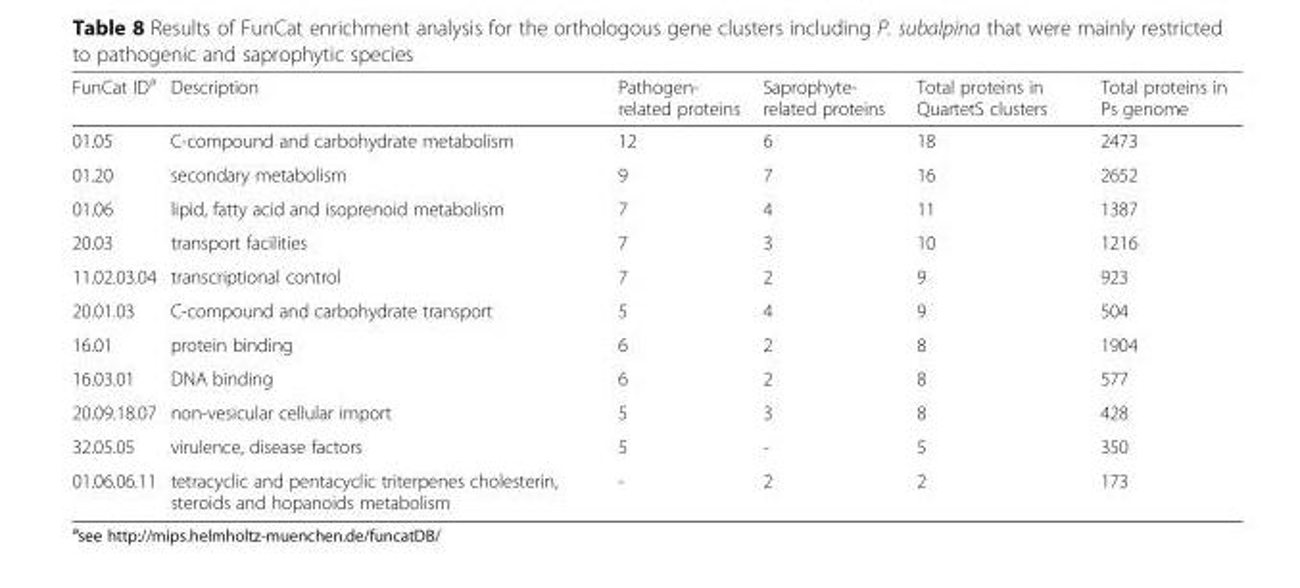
<table><thead><tr><td>FunCat ID<sup>a</sup></td><td>Description</td><td>Pathogen- related proteins</td><td>Saprophyte- related proteins</td><td>Total proteins in QuartetS clusters</td><td>Total proteins in Ps genome</td></tr></thead><tbody><tr><td>01.05</td><td>C-compound and carbohydrate metabolism</td><td>12</td><td>6</td><td>18</td><td>2473</td></tr><tr><td>01.20</td><td>secondary metabolism</td><td>9</td><td>7</td><td>16</td><td>2652</td></tr><tr><td>01.06</td><td>lipid, fatty acid and isoprenoid metabolism</td><td>7</td><td>4</td><td>11</td><td>1387</td></tr><tr><td>20.03</td><td>transport facilities</td><td>7</td><td>3</td><td>10</td><td>1216</td></tr><tr><td>11.02.03.04</td><td>transcriptional control</td><td>7</td><td>2</td><td>9</td><td>923</td></tr><tr><td>20.01.03</td><td>C-compound and carbohydrate transport</td><td>5</td><td>4</td><td>9</td><td>504</td></tr><tr><td>16.01</td><td>protein binding</td><td>6</td><td>2</td><td>8</td><td>1904</td></tr><tr><td>16.03.01</td><td>DNA binding</td><td>6</td><td>2</td><td>8</td><td>577</td></tr><tr><td>20.09.18.07</td><td>non-vesicular cellular import</td><td>5</td><td>3</td><td>8</td><td>428</td></tr><tr><td>32.05.05</td><td>virulence, disease factors</td><td>5</td><td>-</td><td>5</td><td>350</td></tr><tr><td>01.06.06.11</td><td>tetracyclic and pentacyclic triterpenes cholesterin, steroids and hopanoids metabolism</td><td>-</td><td>2</td><td>2</td><td>173</td></tr></tbody></table>